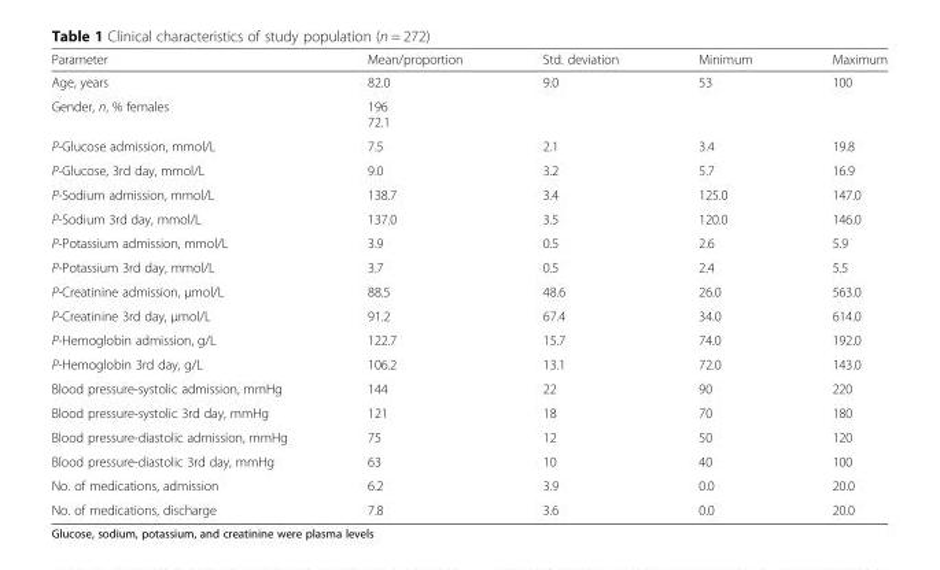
<table><thead><tr><td>Parameter</td><td>Mean/proportion</td><td>Std. deviation</td><td>Minimum</td><td>Maximum</td></tr></thead><tbody><tr><td>Age, years</td><td>82.0</td><td>9.0</td><td>53</td><td>100</td></tr><tr><td>Gender, n, % females</td><td>196 72.1</td><td></td><td></td><td></td></tr><tr><td>P-Glucose admission, mmol/L</td><td>7.5</td><td>2.1</td><td>3.4</td><td>19.8</td></tr><tr><td>P-Glucose, 3rd day, mmol/L</td><td>9.0</td><td>3.2</td><td>5.7</td><td>16.9</td></tr><tr><td>P-Sodium admission, mmol/L</td><td>138.7</td><td>3.4</td><td>125.0</td><td>147.0</td></tr><tr><td>P-Sodium 3rd day, mmol/L</td><td>137.0</td><td>3.5</td><td>120.0</td><td>146.0</td></tr><tr><td>P-Potassium admission, mmol/L</td><td>3.9</td><td>0.5</td><td>2.6</td><td>5.9</td></tr><tr><td>P-Potassium 3rd day, mmol/L</td><td>3.7</td><td>0.5</td><td>2.4</td><td>5.5</td></tr><tr><td>P-Creatinine admission, μmol/L</td><td>88.5</td><td>48.6</td><td>26.0</td><td>563.0</td></tr><tr><td>P-Creatinine 3rd day, μmol/L</td><td>91.2</td><td>67.4</td><td>34.0</td><td>614.0</td></tr><tr><td>P-Hemoglobin admission, g/L</td><td>122.7</td><td>15.7</td><td>74.0</td><td>192.0</td></tr><tr><td>P-Hemoglobin 3rd day, g/L</td><td>106.2</td><td>13.1</td><td>72.0</td><td>143.0</td></tr><tr><td>Blood pressure-systolic admission, mmHg</td><td>144</td><td>22</td><td>90</td><td>220</td></tr><tr><td>Blood pressure-systolic 3rd day, mmHg</td><td>121</td><td>18</td><td>70</td><td>180</td></tr><tr><td>Blood pressure-diastolic admission, mmHg</td><td>75</td><td>12</td><td>50</td><td>120</td></tr><tr><td>Blood pressure-diastolic 3rd day, mmHg</td><td>63</td><td>10</td><td>40</td><td>100</td></tr><tr><td>No. of medications, admission</td><td>6.2</td><td>3.9</td><td>0.0</td><td>20.0</td></tr><tr><td>No. of medications, discharge</td><td>7.8</td><td>3.6</td><td>0.0</td><td>20.0</td></tr></tbody></table>